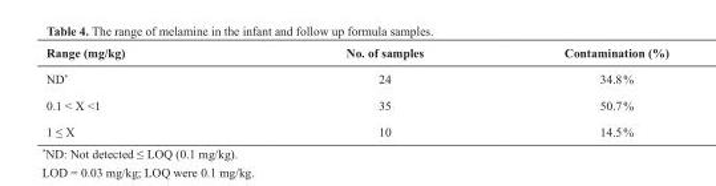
<table><thead><tr><td>Range (mg/kg)</td><td>No. of samples</td><td>Contamination (%)</td></tr></thead><tbody><tr><td>ND*</td><td>24</td><td>34.8%</td></tr><tr><td>0.1 &lt; X &lt;1</td><td>35</td><td>50.7%</td></tr><tr><td>1 ≤ X</td><td>10</td><td>14.5%</td></tr></tbody></table>